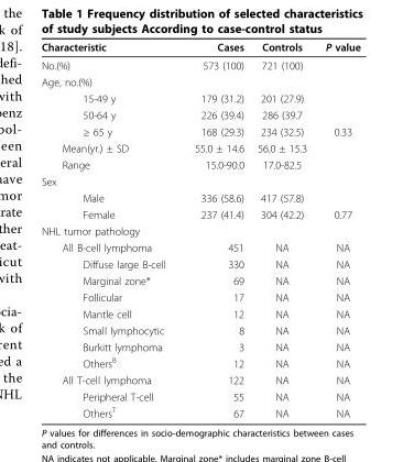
<table><thead><tr><td>Characteristic</td><td>Cases</td><td>Controls</td><td>P value</td></tr></thead><tbody><tr><td>No.(%)</td><td>573 (100)</td><td>721 (100)</td><td></td></tr><tr><td colspan="4">Age, no.(%)</td></tr><tr><td>15-49 y</td><td>179 (31.2)</td><td>201 (27.9)</td><td></td></tr><tr><td>50-64 y</td><td>226 (39.4)</td><td>286 (39.7</td><td></td></tr><tr><td>≥ 65 y</td><td>168 (29.3)</td><td>234 (32.5)</td><td>0.33</td></tr><tr><td>Mean(yr.) ± SD</td><td>55.0 ± 14.6</td><td>56.0 ± 15.3</td><td></td></tr><tr><td>Range</td><td>15.0-90.0</td><td>17.0-82.5</td><td></td></tr><tr><td colspan="4">Sex</td></tr><tr><td>Male</td><td>336 (58.6)</td><td>417 (57.8)</td><td></td></tr><tr><td>Female</td><td>237 (41.4)</td><td>304 (42.2)</td><td>0.77</td></tr><tr><td colspan="4">NHL tumor pathology</td></tr><tr><td>All B-cell lymphoma</td><td>451</td><td>NA</td><td>NA</td></tr><tr><td>Diffuse large B-cell</td><td>330</td><td>NA</td><td>NA</td></tr><tr><td>Marginal zone*</td><td>69</td><td>NA</td><td>NA</td></tr><tr><td>Follicular</td><td>17</td><td>NA</td><td>NA</td></tr><tr><td>Mantle cell</td><td>12</td><td>NA</td><td>NA</td></tr><tr><td>Small lymphocytic</td><td>8</td><td>NA</td><td>NA</td></tr><tr><td>Burkitt lymphoma</td><td>3</td><td>NA</td><td>NA</td></tr><tr><td>Others<sup>B</sup></td><td>12</td><td>NA</td><td>NA</td></tr><tr><td>All T-cell lymphoma</td><td>122</td><td>NA</td><td>NA</td></tr><tr><td>Peripheral T-cell</td><td>55</td><td>NA</td><td>NA</td></tr><tr><td>Others<sup>T</sup></td><td>67</td><td>NA</td><td>NA</td></tr></tbody></table>